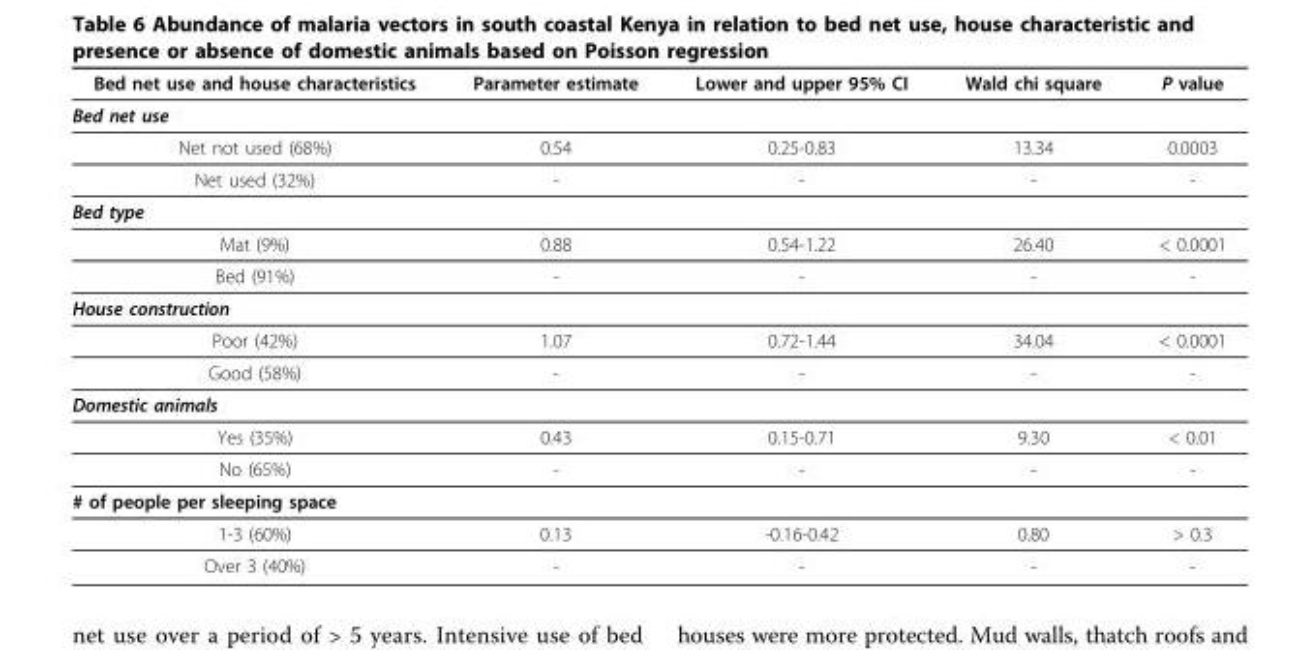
<table><thead><tr><td>Bed net use and house characteristics</td><td>Parameter estimate</td><td>Lower and upper 95% CI</td><td>Wald chi square</td><td>P value</td></tr></thead><tbody><tr><td colspan="5">Bed net use</td></tr><tr><td>Net not used (68%)</td><td>0.54</td><td>0.25-0.83</td><td>13.34</td><td>0.0003</td></tr><tr><td>Net used (32%)</td><td>-</td><td>-</td><td>-</td><td>-</td></tr><tr><td colspan="5">Bed type</td></tr><tr><td>Mat (9%)</td><td>0.88</td><td>0.54-1.22</td><td>26.40</td><td>&lt; 0.0001</td></tr><tr><td>Bed (91%)</td><td>-</td><td>-</td><td>-</td><td>-</td></tr><tr><td colspan="5">House construction</td></tr><tr><td>Poor (42%)</td><td>1.07</td><td>0.72-1.44</td><td>34.04</td><td>&lt; 0.0001</td></tr><tr><td>Good (58%)</td><td>-</td><td>-</td><td>-</td><td>-</td></tr><tr><td colspan="5">Domestic animals</td></tr><tr><td>Yes (35%)</td><td>0.43</td><td>0.15-0.71</td><td>9.30</td><td>&lt; 0.01</td></tr><tr><td>No (65%)</td><td>-</td><td>-</td><td>-</td><td>-</td></tr><tr><td colspan="5"># of people per sleeping space</td></tr><tr><td>1-3 (60%)</td><td>0.13</td><td>-0.16-0.42</td><td>0.80</td><td>&gt; 0.3</td></tr><tr><td>Over 3 (40%)</td><td>-</td><td>-</td><td>-</td><td>-</td></tr></tbody></table>